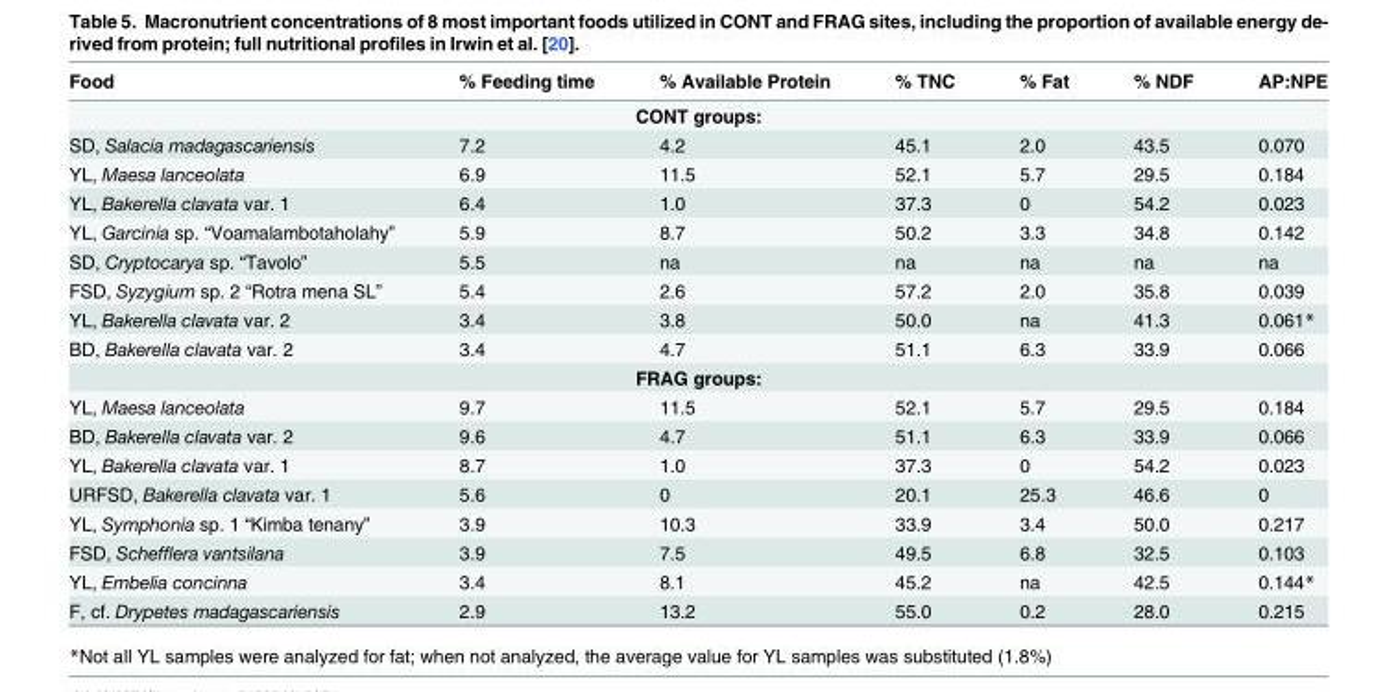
<table><thead><tr><td>Food</td><td>% Feeding time</td><td>% Available Protein</td><td>% TNC</td><td>% Fat</td><td>% NDF</td><td>AP:NPE</td></tr></thead><tbody><tr><td colspan="7">CONT groups:</td></tr><tr><td>SD, Salacia madagascariensis</td><td>7.2</td><td>4.2</td><td>45.1</td><td>2.0</td><td>43.5</td><td>0.070</td></tr><tr><td>YL, Maesa lanceolata</td><td>6.9</td><td>11.5</td><td>52.1</td><td>5.7</td><td>29.5</td><td>0.184</td></tr><tr><td>YL, Bakerella clavata var. 1</td><td>6.4</td><td>1.0</td><td>37.3</td><td>0</td><td>54.2</td><td>0.023</td></tr><tr><td>YL, Garcinia sp. “Voamalambotaholahy”</td><td>5.9</td><td>8.7</td><td>50.2</td><td>3.3</td><td>34.8</td><td>0.142</td></tr><tr><td>SD, Cryptocarya sp. “Tavolo”</td><td>5.5</td><td>na</td><td>na</td><td>na</td><td>na</td><td>na</td></tr><tr><td>FSD, Syzygium sp. 2 “Rotra mena SL”</td><td>5.4</td><td>2.6</td><td>57.2</td><td>2.0</td><td>35.8</td><td>0.039</td></tr><tr><td>YL, Bakerella clavata var. 2</td><td>3.4</td><td>3.8</td><td>50.0</td><td>na</td><td>41.3</td><td>0.061*</td></tr><tr><td>BD, Bakerella clavata var. 2</td><td>3.4</td><td>4.7</td><td>51.1</td><td>6.3</td><td>33.9</td><td>0.066</td></tr><tr><td colspan="7">FRAG groups:</td></tr><tr><td>YL, Maesa lanceolata</td><td>9.7</td><td>11.5</td><td>52.1</td><td>5.7</td><td>29.5</td><td>0.184</td></tr><tr><td>BD, Bakerella clavata var. 2</td><td>9.6</td><td>4.7</td><td>51.1</td><td>6.3</td><td>33.9</td><td>0.066</td></tr><tr><td>YL, Bakerella clavata var. 1</td><td>8.7</td><td>1.0</td><td>37.3</td><td>0</td><td>54.2</td><td>0.023</td></tr><tr><td>URFSD, Bakerella clavata var. 1</td><td>5.6</td><td>0</td><td>20.1</td><td>25.3</td><td>46.6</td><td>0</td></tr><tr><td>YL, Symphonia sp. 1 “Kimba tenany”</td><td>3.9</td><td>10.3</td><td>33.9</td><td>3.4</td><td>50.0</td><td>0.217</td></tr><tr><td>FSD, Schefflera vantsilana</td><td>3.9</td><td>7.5</td><td>49.5</td><td>6.8</td><td>32.5</td><td>0.103</td></tr><tr><td>YL, Embelia concinna</td><td>3.4</td><td>8.1</td><td>45.2</td><td>na</td><td>42.5</td><td>0.144*</td></tr><tr><td>F, cf. Drypetes madagascariensis</td><td>2.9</td><td>13.2</td><td>55.0</td><td>0.2</td><td>28.0</td><td>0.215</td></tr></tbody></table>